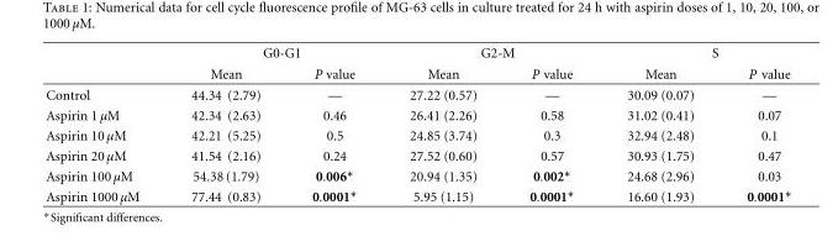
<table><thead><tr><td rowspan="2"></td><td colspan="2">G0-G1</td><td colspan="2">G2-M</td><td colspan="2">S</td></tr><tr><td>Mean</td><td>P value</td><td>Mean</td><td>P value</td><td>Mean</td><td>P value</td></tr></thead><tbody><tr><td>Control</td><td>44.34 (2.79)</td><td>—</td><td>27.22 (0.57)</td><td>—</td><td>30.09 (0.07)</td><td>—</td></tr><tr><td>Aspirin 1 μM</td><td>42.34 (2.63)</td><td>0.46</td><td>26.41 (2.26)</td><td>0.58</td><td>31.02 (0.41)</td><td>0.07</td></tr><tr><td>Aspirin 10 μM</td><td>42.21 (5.25)</td><td>0.5</td><td>24.85 (3.74)</td><td>0.3</td><td>32.94 (2.48)</td><td>0.1</td></tr><tr><td>Aspirin 20 μM</td><td>41.54 (2.16)</td><td>0.24</td><td>27.52 (0.60)</td><td>0.57</td><td>30.93 (1.75)</td><td>0.47</td></tr><tr><td>Aspirin 100 μM</td><td>54.38 (1.79)</td><td>0.006∗</td><td>20.94 (1.35)</td><td>0.002∗</td><td>24.68 (2.96)</td><td>0.03</td></tr><tr><td>Aspirin 1000 μM</td><td>77.44 (0.83)</td><td>0.0001∗</td><td>5.95 (1.15)</td><td>0.0001∗</td><td>16.60 (1.93)</td><td>0.0001∗</td></tr></tbody></table>